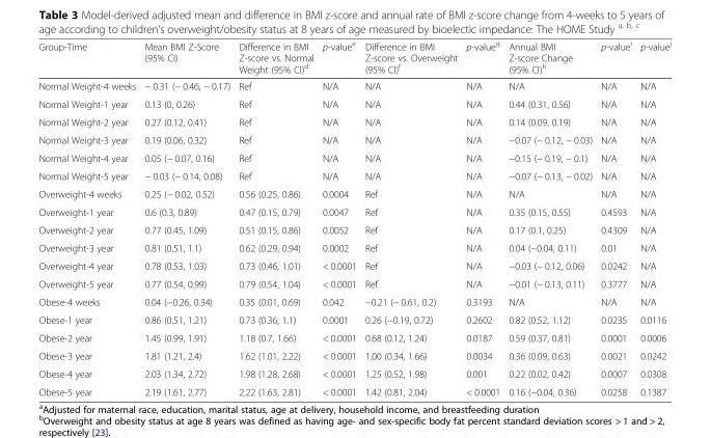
<table><thead><tr><td>Group-Time</td><td>Mean BMI Z-Score (95% CI)</td><td>Difference in BMI Z-score vs. Normal Weight (95% CI)<sup>d</sup></td><td>p-value<sup>e</sup></td><td>Difference in BMI Z-score vs. Overweight (95% CI)<sup>f</sup></td><td>p-value<sup>g</sup></td><td>Annual BMI Z-score Change (95% CI)<sup>h</sup></td><td>p-value<sup>i</sup></td><td>p-value<sup>j</sup></td></tr></thead><tbody><tr><td>Normal Weight-4 weeks</td><td>− 0.31 (− 0.46, − 0.17)</td><td>Ref</td><td>N/A</td><td>N/A</td><td>N/A</td><td>N/A</td><td>N/A</td><td>N/A</td></tr><tr><td>Normal Weight-1 year</td><td>0.13 (0, 0.26)</td><td>Ref</td><td>N/A</td><td>N/A</td><td>N/A</td><td>0.44 (0.31, 0.56)</td><td>N/A</td><td>N/A</td></tr><tr><td>Normal Weight-2 year</td><td>0.27 (0.12, 0.41)</td><td>Ref</td><td>N/A</td><td>N/A</td><td>N/A</td><td>0.14 (0.09, 0.19)</td><td>N/A</td><td>N/A</td></tr><tr><td>Normal Weight-3 year</td><td>0.19 (0.06, 0.32)</td><td>Ref</td><td>N/A</td><td>N/A</td><td>N/A</td><td>−0.07 (− 0.12, − 0.03)</td><td>N/A</td><td>N/A</td></tr><tr><td>Normal Weight-4 year</td><td>0.05 (− 0.07, 0.16)</td><td>Ref</td><td>N/A</td><td>N/A</td><td>N/A</td><td>−0.15 (− 0.19, − 0.1)</td><td>N/A</td><td>N/A</td></tr><tr><td>Normal Weight-5 year</td><td>− 0.03 (− 0.14, 0.08)</td><td>Ref</td><td>N/A</td><td>N/A</td><td>N/A</td><td>−0.07 (− 0.13, − 0.02)</td><td>N/A</td><td>N/A</td></tr><tr><td>Overweight-4 weeks</td><td>0.25 (− 0.02, 0.52)</td><td>0.56 (0.25, 0.86)</td><td>0.0004</td><td>Ref</td><td>N/A</td><td>N/A</td><td>N/A</td><td>N/A</td></tr><tr><td>Overweight-1 year</td><td>0.6 (0.3, 0.89)</td><td>0.47 (0.15, 0.79)</td><td>0.0047</td><td>Ref</td><td>N/A</td><td>0.35 (0.15, 0.55)</td><td>0.4593</td><td>N/A</td></tr><tr><td>Overweight-2 year</td><td>0.77 (0.45, 1.09)</td><td>0.51 (0.15, 0.86)</td><td>0.0052</td><td>Ref</td><td>N/A</td><td>0.17 (0.1, 0.25)</td><td>0.4309</td><td>N/A</td></tr><tr><td>Overweight-3 year</td><td>0.81 (0.51, 1.1)</td><td>0.62 (0.29, 0.94)</td><td>0.0002</td><td>Ref</td><td>N/A</td><td>0.04 (−0.04, 0.11)</td><td>0.01</td><td>N/A</td></tr><tr><td>Overweight-4 year</td><td>0.78 (0.53, 1.03)</td><td>0.73 (0.46, 1.01)</td><td>&lt; 0.0001</td><td>Ref</td><td>N/A</td><td>−0.03 (− 0.12, 0.06)</td><td>0.0242</td><td>N/A</td></tr><tr><td>Overweight-5 year</td><td>0.77 (0.54, 0.99)</td><td>0.79 (0.54, 1.04)</td><td>&lt; 0.0001</td><td>Ref</td><td>N/A</td><td>−0.01 (− 0.13, 0.11)</td><td>0.3777</td><td>N/A</td></tr><tr><td>Obese-4 weeks</td><td>0.04 (−0.26, 0.34)</td><td>0.35 (0.01, 0.69)</td><td>0.042</td><td>−0.21 (− 0.61, 0.2)</td><td>0.3193</td><td>N/A</td><td>N/A</td><td>N/A</td></tr><tr><td>Obese-1 year</td><td>0.86 (0.51, 1.21)</td><td>0.73 (0.36, 1.1)</td><td>0.0001</td><td>0.26 (−0.19, 0.72)</td><td>0.2602</td><td>0.82 (0.52, 1.12)</td><td>0.0235</td><td>0.0116</td></tr><tr><td>Obese-2 year</td><td>1.45 (0.99, 1.91)</td><td>1.18 (0.7, 1.66)</td><td>&lt; 0.0001</td><td>0.68 (0.12, 1.24)</td><td>0.0187</td><td>0.59 (0.37, 0.81)</td><td>0.0001</td><td>0.0006</td></tr><tr><td>Obese-3 year</td><td>1.81 (1.21, 2.4)</td><td>1.62 (1.01, 2.22)</td><td>&lt; 0.0001</td><td>1.00 (0.34, 1.66)</td><td>0.0034</td><td>0.36 (0.09, 0.63)</td><td>0.0021</td><td>0.0242</td></tr><tr><td>Obese-4 year</td><td>2.03 (1.34, 2.72)</td><td>1.98 (1.28, 2.68)</td><td>&lt; 0.0001</td><td>1.25 (0.52, 1.98)</td><td>0.001</td><td>0.22 (0.02, 0.42)</td><td>0.0007</td><td>0.0308</td></tr><tr><td>Obese-5 year</td><td>2.19 (1.61, 2.77)</td><td>2.22 (1.63, 2.81)</td><td>&lt; 0.0001</td><td>1.42 (0.81, 2.04)</td><td>&lt; 0.0001</td><td>0.16 (−0.04, 0.36)</td><td>0.0258</td><td>0.1387</td></tr></tbody></table>